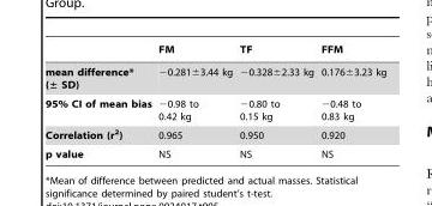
<table><thead><tr><td></td><td>FM</td><td>TF</td><td>FFM</td></tr></thead><tbody><tr><td>mean difference* (± SD)</td><td>−0.281±3.44 kg</td><td>−0.328±2.33 kg</td><td>0.176±3.23 kg</td></tr><tr><td>95% CI of mean bias</td><td>−0.98 to 0.42 kg</td><td>−0.80 to 0.15 kg</td><td>−0.48 to 0.83 kg</td></tr><tr><td>Correlation (r<sup>2</sup>)</td><td>0.965</td><td>0.950</td><td>0.920</td></tr><tr><td>p value</td><td>NS</td><td>NS</td><td>NS</td></tr></tbody></table>